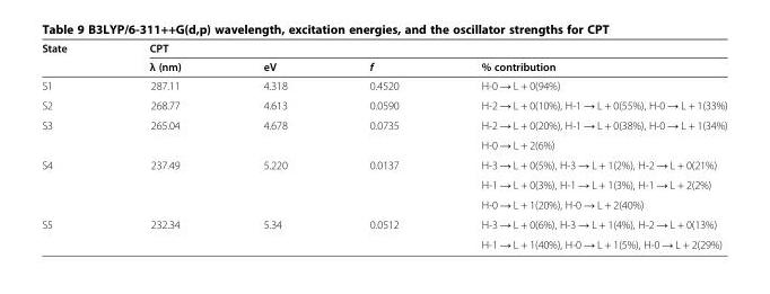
<table><thead><tr><td rowspan="2">State</td><td colspan="4">CPT</td></tr><tr><td>λ (nm)</td><td>eV</td><td>f</td><td>% contribution</td></tr></thead><tbody><tr><td>S1</td><td>287.11</td><td>4.318</td><td>0.4520</td><td>H-0 → L + 0(94%)</td></tr><tr><td>S2</td><td>268.77</td><td>4.613</td><td>0.0590</td><td>H-2 → L + 0(10%), H-1 → L + 0(55%), H-0 → L + 1(33%)</td></tr><tr><td rowspan="2">S3</td><td rowspan="2">265.04</td><td rowspan="2">4.678</td><td rowspan="2">0.0735</td><td>H-2 → L + 0(20%), H-1 → L + 0(38%), H-0 → L + 1(34%)</td></tr><tr><td>H-0 → L + 2(6%)</td></tr><tr><td rowspan="3">S4</td><td rowspan="3">237.49</td><td rowspan="3">5.220</td><td rowspan="3">0.0137</td><td>H-3 → L + 0(5%), H-3 → L + 1(2%), H-2 → L + 0(21%)</td></tr><tr><td>H-1 → L + 0(3%), H-1 → L + 1(3%), H-1 → L + 2(2%)</td></tr><tr><td>H-0 → L + 1(20%), H-0 → L + 2(40%)</td></tr><tr><td rowspan="2">S5</td><td>232.34</td><td>5.34</td><td>0.0512</td><td>H-3 → L + 0(6%), H-3 → L + 1(4%), H-2 → L + 0(13%)</td></tr><tr><td></td><td></td><td></td><td>H-1 → L + 1(40%), H-0 → L + 1(5%), H-0 → L + 2(29%)</td></tr></tbody></table>